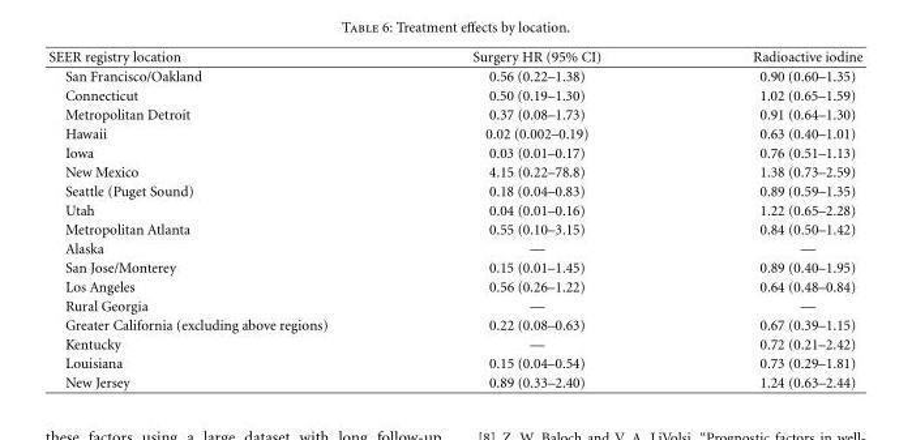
<table><thead><tr><td>SEER registry location</td><td>Surgery HR (95% CI)</td><td>Radioactive iodine</td></tr></thead><tbody><tr><td>San Francisco/Oakland</td><td>0.56 (0.22–1.38)</td><td>0.90 (0.60–1.35)</td></tr><tr><td>Connecticut</td><td>0.50 (0.19–1.30)</td><td>1.02 (0.65–1.59)</td></tr><tr><td>Metropolitan Detroit</td><td>0.37 (0.08–1.73)</td><td>0.91 (0.64–1.30)</td></tr><tr><td>Hawaii</td><td>0.02 (0.002–0.19)</td><td>0.63 (0.40–1.01)</td></tr><tr><td>Iowa</td><td>0.03 (0.01–0.17)</td><td>0.76 (0.51–1.13)</td></tr><tr><td>New Mexico</td><td>4.15 (0.22–78.8)</td><td>1.38 (0.73–2.59)</td></tr><tr><td>Seattle (Puget Sound)</td><td>0.18 (0.04–0.83)</td><td>0.89 (0.59–1.35)</td></tr><tr><td>Utah</td><td>0.04 (0.01–0.16)</td><td>1.22 (0.65–2.28)</td></tr><tr><td>Metropolitan Atlanta</td><td>0.55 (0.10–3.15)</td><td>0.84 (0.50–1.42)</td></tr><tr><td>Alaska</td><td>—</td><td>—</td></tr><tr><td>San Jose/Monterey</td><td>0.15 (0.01–1.45)</td><td>0.89 (0.40–1.95)</td></tr><tr><td>Los Angeles</td><td>0.56 (0.26–1.22)</td><td>0.64 (0.48–0.84)</td></tr><tr><td>Rural Georgia</td><td>—</td><td>—</td></tr><tr><td>Greater California (excluding above regions)</td><td>0.22 (0.08–0.63)</td><td>0.67 (0.39–1.15)</td></tr><tr><td>Kentucky</td><td>—</td><td>0.72 (0.21–2.42)</td></tr><tr><td>Louisiana</td><td>0.15 (0.04–0.54)</td><td>0.73 (0.29–1.81)</td></tr><tr><td>New Jersey</td><td>0.89 (0.33–2.40)</td><td>1.24 (0.63–2.44)</td></tr></tbody></table>